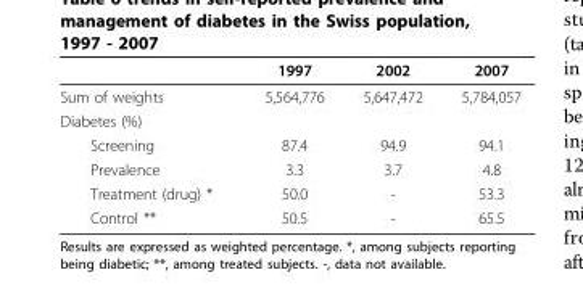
<table><thead><tr><td></td><td>1997</td><td>2002</td><td>2007</td></tr></thead><tbody><tr><td>Sum of weights</td><td>5,564,776</td><td>5,647,472</td><td>5,784,057</td></tr><tr><td colspan="4">Diabetes (%)</td></tr><tr><td>Screening</td><td>87.4</td><td>94.9</td><td>94.1</td></tr><tr><td>Prevalence</td><td>3.3</td><td>3.7</td><td>4.8</td></tr><tr><td>Treatment (drug) *</td><td>50.0</td><td>-</td><td>53.3</td></tr><tr><td>Control **</td><td>50.5</td><td>-</td><td>65.5</td></tr></tbody></table>